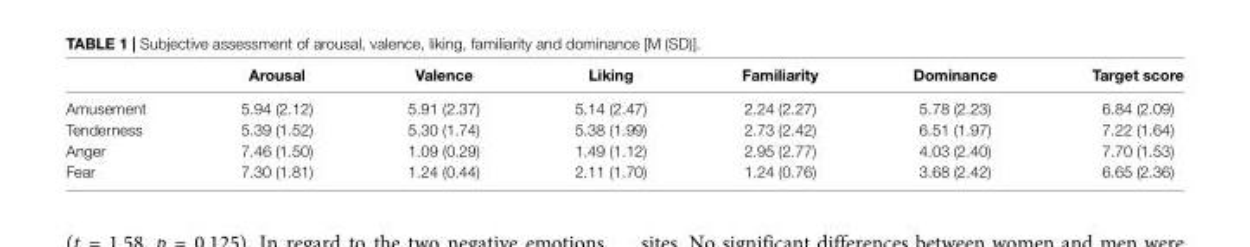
<table><thead><tr><td></td><td>Arousal</td><td>Valence</td><td>Liking</td><td>Familiarity</td><td>Dominance</td><td>Target score</td></tr></thead><tbody><tr><td>Amusement</td><td>5.94 (2.12)</td><td>5.91 (2.37)</td><td>5.14 (2.47)</td><td>2.24 (2.27)</td><td>5.78 (2.23)</td><td>6.84 (2.09)</td></tr><tr><td>Tenderness</td><td>5.39 (1.52)</td><td>5.30 (1.74)</td><td>5.38 (1.99)</td><td>2.73 (2.42)</td><td>6.51 (1.97)</td><td>7.22 (1.64)</td></tr><tr><td>Anger</td><td>7.46 (1.50)</td><td>1.09 (0.29)</td><td>1.49 (1.12)</td><td>2.95 (2.77)</td><td>4.03 (2.40)</td><td>7.70 (1.53)</td></tr><tr><td>Fear</td><td>7.30 (1.81)</td><td>1.24 (0.44)</td><td>2.11 (1.70)</td><td>1.24 (0.76)</td><td>3.68 (2.42)</td><td>6.65 (2.36)</td></tr></tbody></table>